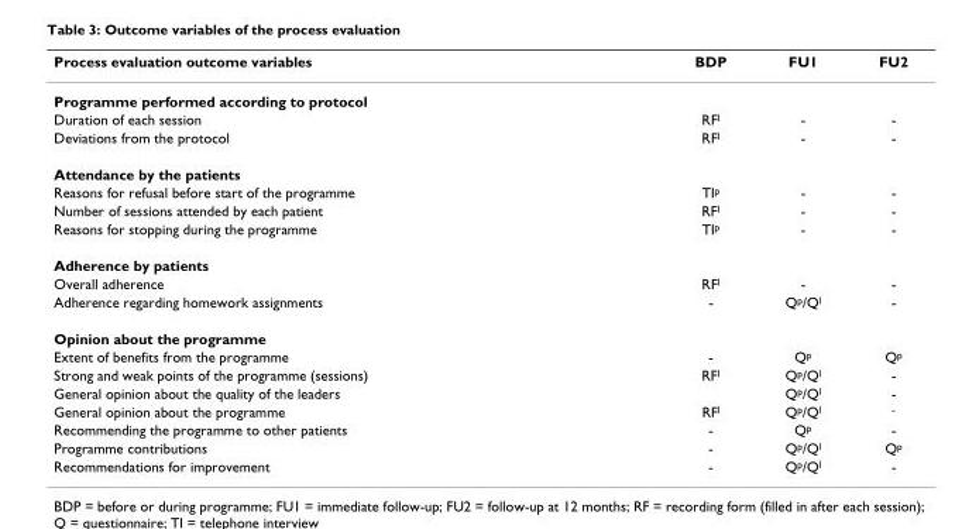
<table><thead><tr><td>Process evaluation outcome variables</td><td>BDP</td><td>FU1</td><td>FU2</td></tr></thead><tbody><tr><td colspan="4">Programme performed according to protocol</td></tr><tr><td>Duration of each session</td><td>RFl</td><td>-</td><td>-</td></tr><tr><td>Deviations from the protocol</td><td>RFl</td><td>-</td><td>-</td></tr><tr><td colspan="4">Attendance by the patients</td></tr><tr><td>Reasons for refusal before start of the programme</td><td>TIp</td><td>-</td><td>-</td></tr><tr><td>Number of sessions attended by each patient</td><td>RFl</td><td>-</td><td>-</td></tr><tr><td>Reasons for stopping during the programme</td><td>TIp</td><td>-</td><td>-</td></tr><tr><td colspan="4">Adherence by patients</td></tr><tr><td>Overall adherence</td><td>RFl</td><td>-</td><td>-</td></tr><tr><td>Adherence regarding homework assignments</td><td>-</td><td>Qp/Ql</td><td>-</td></tr><tr><td colspan="4">Opinion about the programme</td></tr><tr><td>Extent of benefits from the programme</td><td>-</td><td>Qp</td><td>Qp</td></tr><tr><td>Strong and weak points of the programme (sessions)</td><td>RFl</td><td>Qp/Ql</td><td>-</td></tr><tr><td>General opinion about the quality of the leaders</td><td></td><td>Qp/Ql</td><td>-</td></tr><tr><td>General opinion about the programme</td><td>RFl</td><td>Qp/Ql</td><td>-</td></tr><tr><td>Recommending the programme to other patients</td><td>-</td><td>Qp</td><td>-</td></tr><tr><td>Programme contributions</td><td>-</td><td>Qp/Ql</td><td>Qp</td></tr><tr><td>Recommendations for improvement</td><td>-</td><td>Qp/Ql</td><td>-</td></tr></tbody></table>